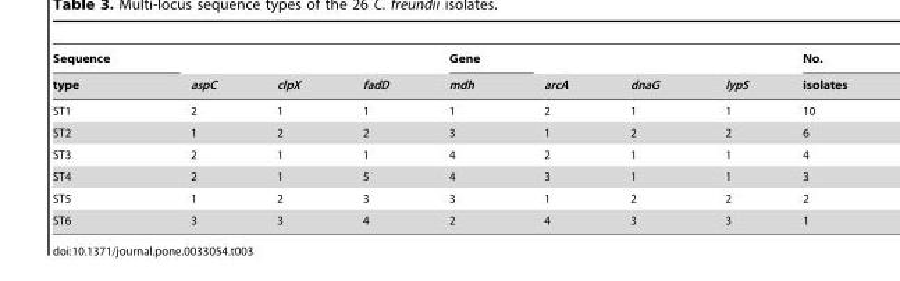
<table><thead><tr><td rowspan="2">Sequence type</td><td rowspan="2">aspC</td><td rowspan="2">clpX</td><td rowspan="2">fadD</td><td rowspan="2">Gene mdh</td><td rowspan="2">arcA</td><td rowspan="2">dnaG</td><td rowspan="2">lypS</td><td rowspan="2">No. isolates</td></tr><tr></tr></thead><tbody><tr><td>ST1</td><td>2</td><td>1</td><td>1</td><td>1</td><td>2</td><td>1</td><td>1</td><td>10</td></tr><tr><td>ST2</td><td>1</td><td>2</td><td>2</td><td>3</td><td>1</td><td>2</td><td>2</td><td>6</td></tr><tr><td>ST3</td><td>2</td><td>1</td><td>1</td><td>4</td><td>2</td><td>1</td><td>1</td><td>4</td></tr><tr><td>ST4</td><td>2</td><td>1</td><td>5</td><td>4</td><td>3</td><td>1</td><td>1</td><td>3</td></tr><tr><td>ST5</td><td>1</td><td>2</td><td>3</td><td>3</td><td>1</td><td>2</td><td>2</td><td>2</td></tr><tr><td>ST6</td><td>3</td><td>3</td><td>4</td><td>2</td><td>4</td><td>3</td><td>3</td><td>1</td></tr></tbody></table>